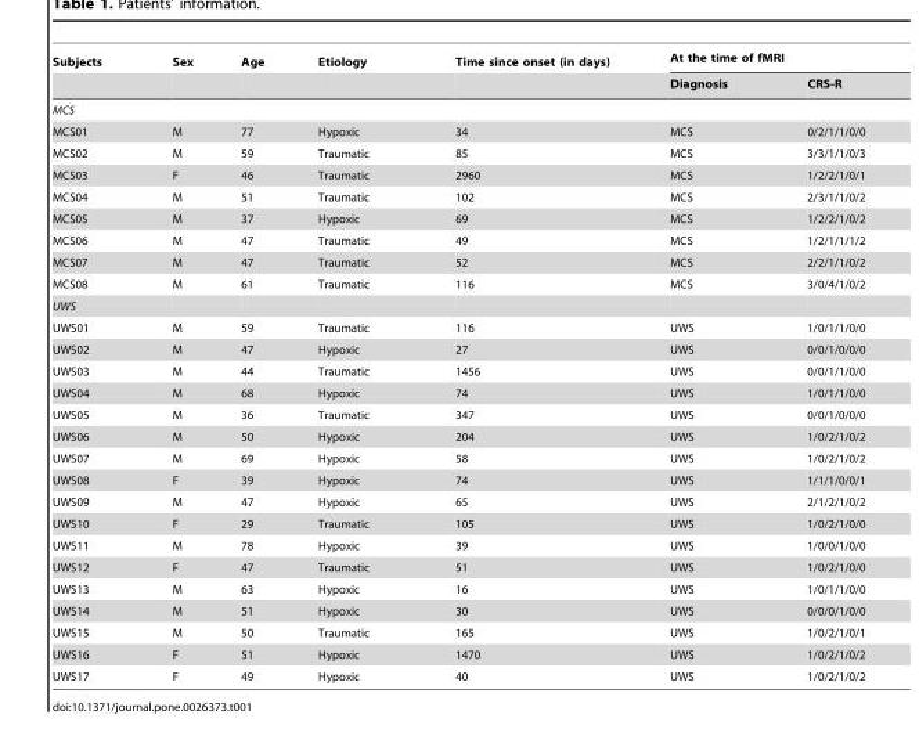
<table><thead><tr><td rowspan="2">Subjects</td><td rowspan="2">Sex</td><td rowspan="2">Age</td><td rowspan="2">Etiology</td><td rowspan="2">Time since onset (in days)</td><td colspan="2">At the time of fMRI</td></tr><tr><td>Diagnosis</td><td>CRS-R</td></tr></thead><tbody><tr><td colspan="7">MCS</td></tr><tr><td>MCS01</td><td>M</td><td>77</td><td>Hypoxic</td><td>34</td><td>MCS</td><td>0/2/1/1/0/0</td></tr><tr><td>MCS02</td><td>M</td><td>59</td><td>Traumatic</td><td>85</td><td>MCS</td><td>3/3/1/1/0/3</td></tr><tr><td>MCS03</td><td>F</td><td>46</td><td>Traumatic</td><td>2960</td><td>MCS</td><td>1/2/2/1/0/1</td></tr><tr><td>MCS04</td><td>M</td><td>51</td><td>Traumatic</td><td>102</td><td>MCS</td><td>2/3/1/1/0/2</td></tr><tr><td>MCS05</td><td>M</td><td>37</td><td>Hypoxic</td><td>69</td><td>MCS</td><td>1/2/2/1/0/2</td></tr><tr><td>MCS06</td><td>M</td><td>47</td><td>Traumatic</td><td>49</td><td>MCS</td><td>1/2/1/1/1/2</td></tr><tr><td>MCS07</td><td>M</td><td>47</td><td>Traumatic</td><td>52</td><td>MCS</td><td>2/2/1/1/0/2</td></tr><tr><td>MCS08</td><td>M</td><td>61</td><td>Traumatic</td><td>116</td><td>MCS</td><td>3/0/4/1/0/2</td></tr><tr><td colspan="7">UWS</td></tr><tr><td>UWS01</td><td>M</td><td>59</td><td>Traumatic</td><td>116</td><td>UWS</td><td>1/0/1/1/0/0</td></tr><tr><td>UWS02</td><td>M</td><td>47</td><td>Hypoxic</td><td>27</td><td>UWS</td><td>0/0/1/0/0/0</td></tr><tr><td>UWS03</td><td>M</td><td>44</td><td>Traumatic</td><td>1456</td><td>UWS</td><td>0/0/1/1/0/0</td></tr><tr><td>UWS04</td><td>M</td><td>68</td><td>Hypoxic</td><td>74</td><td>UWS</td><td>1/0/1/1/0/0</td></tr><tr><td>UWS05</td><td>M</td><td>36</td><td>Traumatic</td><td>347</td><td>UWS</td><td>0/0/1/0/0/0</td></tr><tr><td>UWS06</td><td>M</td><td>50</td><td>Hypoxic</td><td>204</td><td>UWS</td><td>1/0/2/1/0/2</td></tr><tr><td>UWS07</td><td>M</td><td>69</td><td>Hypoxic</td><td>58</td><td>UWS</td><td>1/0/2/1/0/2</td></tr><tr><td>UWS08</td><td>F</td><td>39</td><td>Hypoxic</td><td>74</td><td>UWS</td><td>1/1/1/0/0/1</td></tr><tr><td>UWS09</td><td>M</td><td>47</td><td>Hypoxic</td><td>65</td><td>UWS</td><td>2/1/2/1/0/2</td></tr><tr><td>UWS10</td><td>F</td><td>29</td><td>Traumatic</td><td>105</td><td>UWS</td><td>1/0/2/1/0/0</td></tr><tr><td>UWS11</td><td>M</td><td>78</td><td>Hypoxic</td><td>39</td><td>UWS</td><td>1/0/0/1/0/0</td></tr><tr><td>UWS12</td><td>F</td><td>47</td><td>Traumatic</td><td>51</td><td>UWS</td><td>1/0/2/1/0/0</td></tr><tr><td>UWS13</td><td>M</td><td>63</td><td>Hypoxic</td><td>16</td><td>UWS</td><td>1/0/1/1/0/0</td></tr><tr><td>UWS14</td><td>M</td><td>51</td><td>Hypoxic</td><td>30</td><td>UWS</td><td>0/0/0/1/0/0</td></tr><tr><td>UWS15</td><td>M</td><td>50</td><td>Traumatic</td><td>165</td><td>UWS</td><td>1/0/2/1/0/1</td></tr><tr><td>UWS16</td><td>F</td><td>51</td><td>Hypoxic</td><td>1470</td><td>UWS</td><td>1/0/2/1/0/2</td></tr><tr><td>UWS17</td><td>F</td><td>49</td><td>Hypoxic</td><td>40</td><td>UWS</td><td>1/0/2/1/0/2</td></tr></tbody></table>